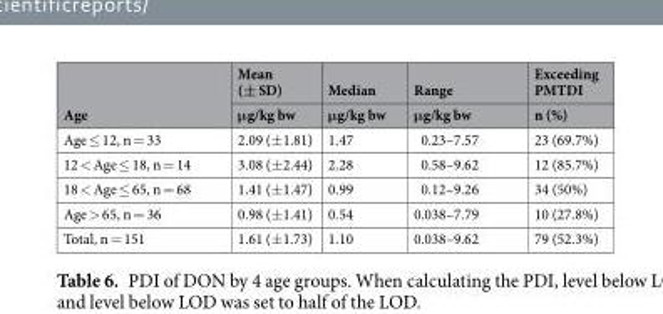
<table><thead><tr><td rowspan="2">Age</td><td rowspan="2">Mean (± SD) μg/kg bw</td><td rowspan="2">Median μg/kg bw</td><td rowspan="2">Range μg/kg bw</td><td rowspan="2">Exceeding PMTDI n (%)</td></tr><tr></tr></thead><tbody><tr><td>Age ≤ 12, n = 33</td><td>2.09 (±1.81)</td><td>1.47</td><td>0.23–7.57</td><td>23 (69.7%)</td></tr><tr><td>12 &lt; Age ≤ 18, n = 14</td><td>3.08 (±2.44)</td><td>2.28</td><td>0.58–9.62</td><td>12 (85.7%)</td></tr><tr><td>18 &lt; Age ≤ 65, n = 68</td><td>1.41 (±1.47)</td><td>0.99</td><td>0.12–9.26</td><td>34 (50%)</td></tr><tr><td>Age &gt; 65, n = 36</td><td>0.98 (±1.41)</td><td>0.54</td><td>0.038–7.79</td><td>10 (27.8%)</td></tr><tr><td>Total, n = 151</td><td>1.61 (±1.73)</td><td>1.10</td><td>0.038–9.62</td><td>79 (52.3%)</td></tr></tbody></table>